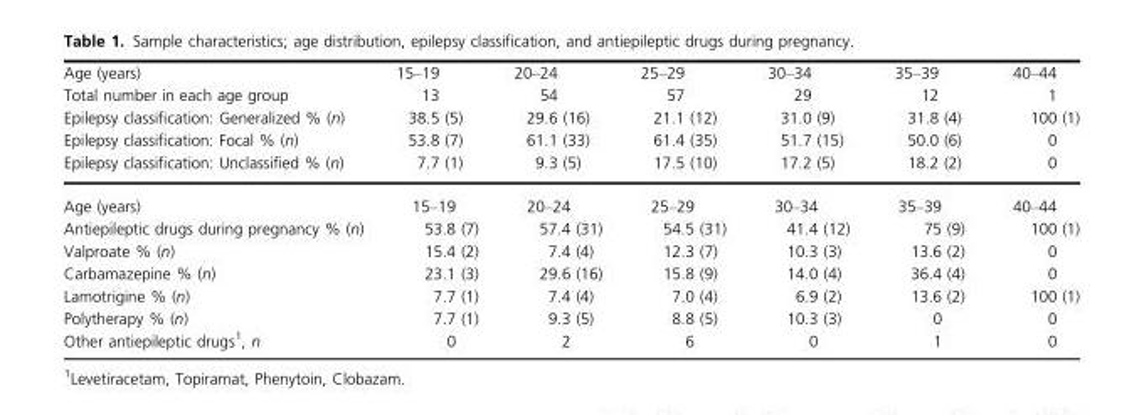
<table><tbody><tr><td>Age (years)</td><td>15–19</td><td>20–24</td><td>25–29</td><td>30–34</td><td>35–39</td><td>40–44</td></tr><tr><td>Total number in each age group</td><td>13</td><td>54</td><td>57</td><td>29</td><td>12</td><td>1</td></tr><tr><td>Epilepsy classification: Generalized % (n)</td><td>38.5 (5)</td><td>29.6 (16)</td><td>21.1 (12)</td><td>31.0 (9)</td><td>31.8 (4)</td><td>100 (1)</td></tr><tr><td>Epilepsy classification: Focal % (n)</td><td>53.8 (7)</td><td>61.1 (33)</td><td>61.4 (35)</td><td>51.7 (15)</td><td>50.0 (6)</td><td>0</td></tr><tr><td>Epilepsy classification: Unclassified % (n)</td><td>7.7 (1)</td><td>9.3 (5)</td><td>17.5 (10)</td><td>17.2 (5)</td><td>18.2 (2)</td><td>0</td></tr><tr><td>Age (years)</td><td>15–19</td><td>20–24</td><td>25–29</td><td>30–34</td><td>35–39</td><td>40–44</td></tr><tr><td>Antiepileptic drugs during pregnancy % (n)</td><td>53.8 (7)</td><td>57.4 (31)</td><td>54.5 (31)</td><td>41.4 (12)</td><td>75 (9)</td><td>100 (1)</td></tr><tr><td>Valproate % (n)</td><td>15.4 (2)</td><td>7.4 (4)</td><td>12.3 (7)</td><td>10.3 (3)</td><td>13.6 (2)</td><td>0</td></tr><tr><td>Carbamazepine % (n)</td><td>23.1 (3)</td><td>29.6 (16)</td><td>15.8 (9)</td><td>14.0 (4)</td><td>36.4 (4)</td><td>0</td></tr><tr><td>Lamotrigine % (n)</td><td>7.7 (1)</td><td>7.4 (4)</td><td>7.0 (4)</td><td>6.9 (2)</td><td>13.6 (2)</td><td>100 (1)</td></tr><tr><td>Polytherapy % (n)</td><td>7.7 (1)</td><td>9.3 (5)</td><td>8.8 (5)</td><td>10.3 (3)</td><td>0</td><td>0</td></tr><tr><td>Other antiepileptic drugs1, n</td><td>0</td><td>2</td><td>6</td><td>0</td><td>1</td><td>0</td></tr></tbody></table>